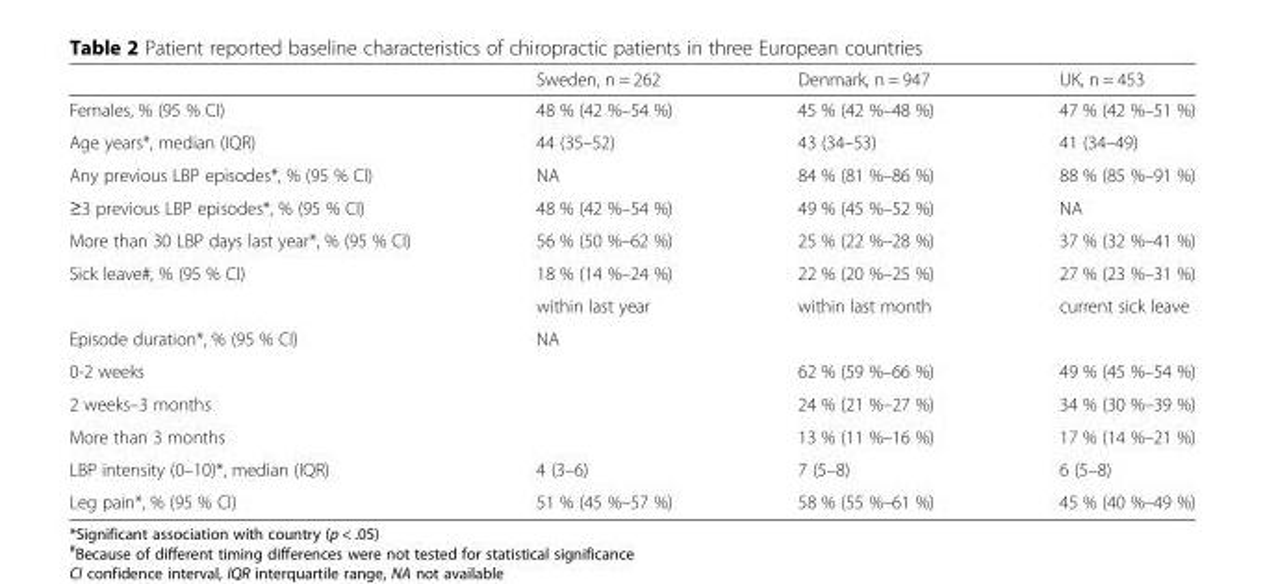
<table><thead><tr><td></td><td>Sweden, n = 262</td><td>Denmark, n = 947</td><td>UK, n = 453</td></tr></thead><tbody><tr><td>Females, % (95 % CI)</td><td>48 % (42 %–54 %)</td><td>45 % (42 %–48 %)</td><td>47 % (42 %–51 %)</td></tr><tr><td>Age years*, median (IQR)</td><td>44 (35–52)</td><td>43 (34–53)</td><td>41 (34–49)</td></tr><tr><td>Any previous LBP episodes*, % (95 % CI)</td><td>NA</td><td>84 % (81 %–86 %)</td><td>88 % (85 %–91 %)</td></tr><tr><td>≥3 previous LBP episodes*, % (95 % CI)</td><td>48 % (42 %–54 %)</td><td>49 % (45 %–52 %)</td><td>NA</td></tr><tr><td>More than 30 LBP days last year*, % (95 % CI)</td><td>56 % (50 %–62 %)</td><td>25 % (22 %–28 %)</td><td>37 % (32 %–41 %)</td></tr><tr><td rowspan="2">Sick leave#, % (95 % CI)</td><td>18 % (14 %–24 %)</td><td>22 % (20 %–25 %)</td><td>27 % (23 %–31 %)</td></tr><tr><td>within last year</td><td>within last month</td><td>current sick leave</td></tr><tr><td>Episode duration*, % (95 % CI)</td><td>NA</td><td></td><td></td></tr><tr><td>0-2 weeks</td><td></td><td>62 % (59 %–66 %)</td><td>49 % (45 %–54 %)</td></tr><tr><td>2 weeks–3 months</td><td></td><td>24 % (21 %–27 %)</td><td>34 % (30 %–39 %)</td></tr><tr><td>More than 3 months</td><td></td><td>13 % (11 %–16 %)</td><td>17 % (14 %–21 %)</td></tr><tr><td>LBP intensity (0–10)*, median (IQR)</td><td>4 (3–6)</td><td>7 (5–8)</td><td>6 (5–8)</td></tr><tr><td>Leg pain*, % (95 % CI)</td><td>51 % (45 %–57 %)</td><td>58 % (55 %–61 %)</td><td>45 % (40 %–49 %)</td></tr></tbody></table>